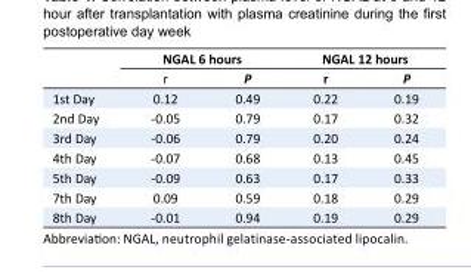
<table><thead><tr><td rowspan="2"></td><td colspan="2">NGAL 6 hours</td><td colspan="2">NGAL 12 hours</td></tr><tr><td>r</td><td>P</td><td>r</td><td>P</td></tr></thead><tbody><tr><td>1st Day</td><td>0.12</td><td>0.49</td><td>0.22</td><td>0.19</td></tr><tr><td>2nd Day</td><td>-0.05</td><td>0.79</td><td>0.17</td><td>0.32</td></tr><tr><td>3rd Day</td><td>-0.06</td><td>0.79</td><td>0.20</td><td>0.24</td></tr><tr><td>4th Day</td><td>-0.07</td><td>0.68</td><td>0.13</td><td>0.45</td></tr><tr><td>5th Day</td><td>-0.09</td><td>0.63</td><td>0.17</td><td>0.33</td></tr><tr><td>7th Day</td><td>0.09</td><td>0.59</td><td>0.18</td><td>0.29</td></tr><tr><td>8th Day</td><td>-0.01</td><td>0.94</td><td>0.19</td><td>0.29</td></tr></tbody></table>